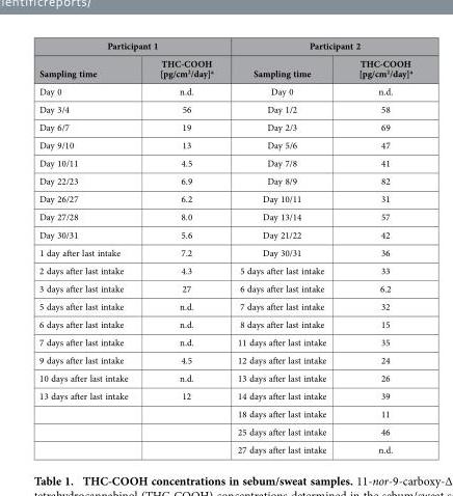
<table><thead><tr><td colspan="2">Participant 1</td><td colspan="2">Participant 2</td></tr><tr><td>Sampling time</td><td>THC-COOH [pg/cm<sup>2</sup>/day]<sup>a</sup></td><td>Sampling time</td><td>THC-COOH [pg/cm<sup>2</sup>/day]<sup>a</sup></td></tr></thead><tbody><tr><td>Day 0</td><td>n.d.</td><td>Day 0</td><td>n.d.</td></tr><tr><td>Day 3/4</td><td>56</td><td>Day 1/2</td><td>58</td></tr><tr><td>Day 6/7</td><td>19</td><td>Day 2/3</td><td>69</td></tr><tr><td>Day 9/10</td><td>13</td><td>Day 5/6</td><td>47</td></tr><tr><td>Day 10/11</td><td>4.5</td><td>Day 7/8</td><td>41</td></tr><tr><td>Day 22/23</td><td>6.9</td><td>Day 8/9</td><td>82</td></tr><tr><td>Day 26/27</td><td>6.2</td><td>Day 10/11</td><td>31</td></tr><tr><td>Day 27/28</td><td>8.0</td><td>Day 13/14</td><td>57</td></tr><tr><td>Day 30/31</td><td>5.6</td><td>Day 21/22</td><td>42</td></tr><tr><td>1 day after last intake</td><td>7.2</td><td>Day 30/31</td><td>36</td></tr><tr><td>2 days after last intake</td><td>4.3</td><td>5 days after last intake</td><td>33</td></tr><tr><td>3 days after last intake</td><td>27</td><td>6 days after last intake</td><td>6.2</td></tr><tr><td>5 days after last intake</td><td>n.d.</td><td>7 days after last intake</td><td>32</td></tr><tr><td>6 days after last intake</td><td>n.d.</td><td>8 days after last intake</td><td>15</td></tr><tr><td>7 days after last intake</td><td>n.d.</td><td>11 days after last intake</td><td>35</td></tr><tr><td>9 days after last intake</td><td>4.5</td><td>12 days after last intake</td><td>24</td></tr><tr><td>10 days after last intake</td><td>n.d.</td><td>13 days after last intake</td><td>26</td></tr><tr><td rowspan="4">13 days after last intake</td><td>12</td><td>14 days after last intake</td><td>39</td></tr><tr><td></td><td>18 days after last intake</td><td>11</td></tr><tr><td></td><td>25 days after last intake</td><td>46</td></tr><tr><td></td><td>27 days after last intake</td><td>n.d.</td></tr></tbody></table>